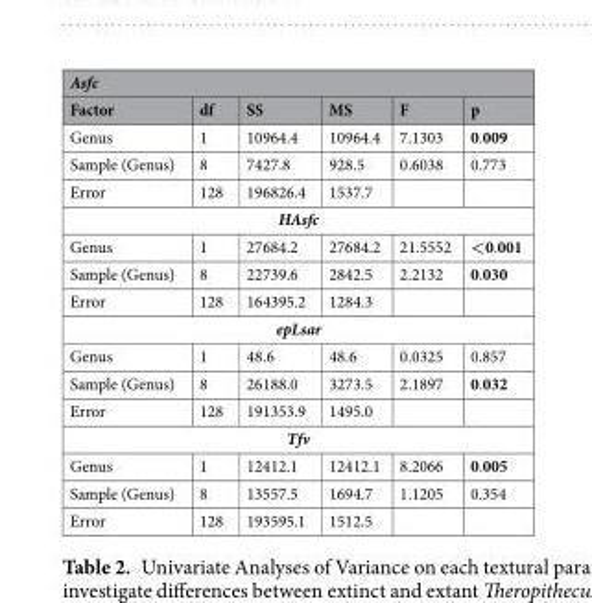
<table><thead><tr><td colspan="6">Asfc</td></tr><tr><td>Factor</td><td>df</td><td>SS</td><td>MS</td><td>F</td><td>p</td></tr></thead><tbody><tr><td>Genus</td><td>1</td><td>10964.4</td><td>10964.4</td><td>7.1303</td><td>0.009</td></tr><tr><td>Sample (Genus)</td><td>8</td><td>7427.8</td><td>928.5</td><td>0.6038</td><td>0.773</td></tr><tr><td>Error</td><td>128</td><td>196826.4</td><td>1537.7</td><td></td><td></td></tr><tr><td colspan="6">HAsfc</td></tr><tr><td>Genus</td><td>1</td><td>27684.2</td><td>27684.2</td><td>21.5552</td><td>&lt;0.001</td></tr><tr><td>Sample (Genus)</td><td>8</td><td>22739.6</td><td>2842.5</td><td>2.2132</td><td>0.030</td></tr><tr><td>Error</td><td>128</td><td>164395.2</td><td>1284.3</td><td></td><td></td></tr><tr><td colspan="6">epLsar</td></tr><tr><td>Genus</td><td>1</td><td>48.6</td><td>48.6</td><td>0.0325</td><td>0.857</td></tr><tr><td>Sample (Genus)</td><td>8</td><td>26188.0</td><td>3273.5</td><td>2.1897</td><td>0.032</td></tr><tr><td>Error</td><td>128</td><td>191353.9</td><td>1495.0</td><td></td><td></td></tr><tr><td colspan="6">Tfv</td></tr><tr><td>Genus</td><td>1</td><td>12412.1</td><td>12412.1</td><td>8.2066</td><td>0.005</td></tr><tr><td>Sample (Genus)</td><td>8</td><td>13557.5</td><td>1694.7</td><td>1.1205</td><td>0.354</td></tr><tr><td>Error</td><td>128</td><td>193595.1</td><td>1512.5</td><td></td><td></td></tr></tbody></table>